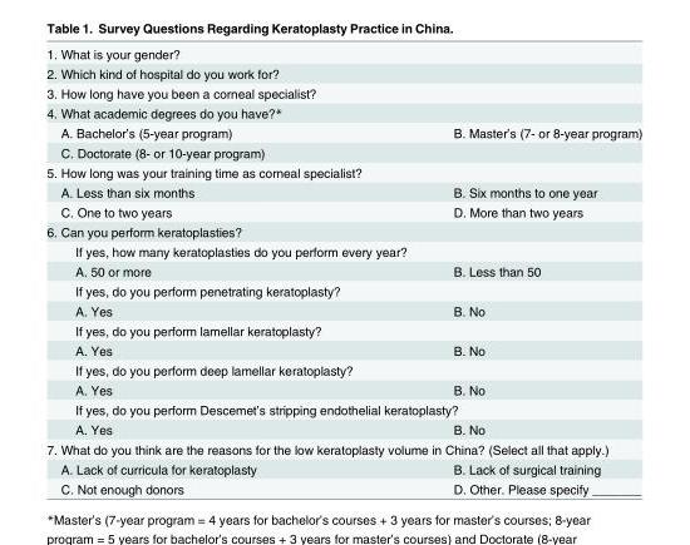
<table><tbody><tr><td colspan="2">1. What is your gender?</td></tr><tr><td colspan="2">2. Which kind of hospital do you work for?</td></tr><tr><td colspan="2">3. How long have you been a corneal specialist?</td></tr><tr><td colspan="2">4. What academic degrees do you have?*</td></tr><tr><td>A. Bachelor’s (5-year program)</td><td>B. Master’s (7- or 8-year program)</td></tr><tr><td colspan="2">C. Doctorate (8- or 10-year program)</td></tr><tr><td colspan="2">5. How long was your training time as corneal specialist?</td></tr><tr><td>A. Less than six months</td><td>B. Six months to one year</td></tr><tr><td>C. One to two years</td><td>D. More than two years</td></tr><tr><td colspan="2">6. Can you perform keratoplasties?</td></tr><tr><td colspan="2">If yes, how many keratoplasties do you perform every year?</td></tr><tr><td>A. 50 or more</td><td>B. Less than 50</td></tr><tr><td colspan="2">If yes, do you perform penetrating keratoplasty?</td></tr><tr><td>A. Yes</td><td>B. No</td></tr><tr><td colspan="2">If yes, do you perform lamellar keratoplasty?</td></tr><tr><td>A. Yes</td><td>B. No</td></tr><tr><td colspan="2">If yes, do you perform deep lamellar keratoplasty?</td></tr><tr><td>A. Yes</td><td>B. No</td></tr><tr><td colspan="2">If yes, do you perform Descemet’s stripping endothelial keratoplasty?</td></tr><tr><td>A. Yes</td><td>B. No</td></tr><tr><td colspan="2">7. What do you think are the reasons for the low keratoplasty volume in China? (Select all that apply.)</td></tr><tr><td>A. Lack of curricula for keratoplasty</td><td>B. Lack of surgical training</td></tr><tr><td>C. Not enough donors</td><td>D. Other. Please specify _______</td></tr></tbody></table>